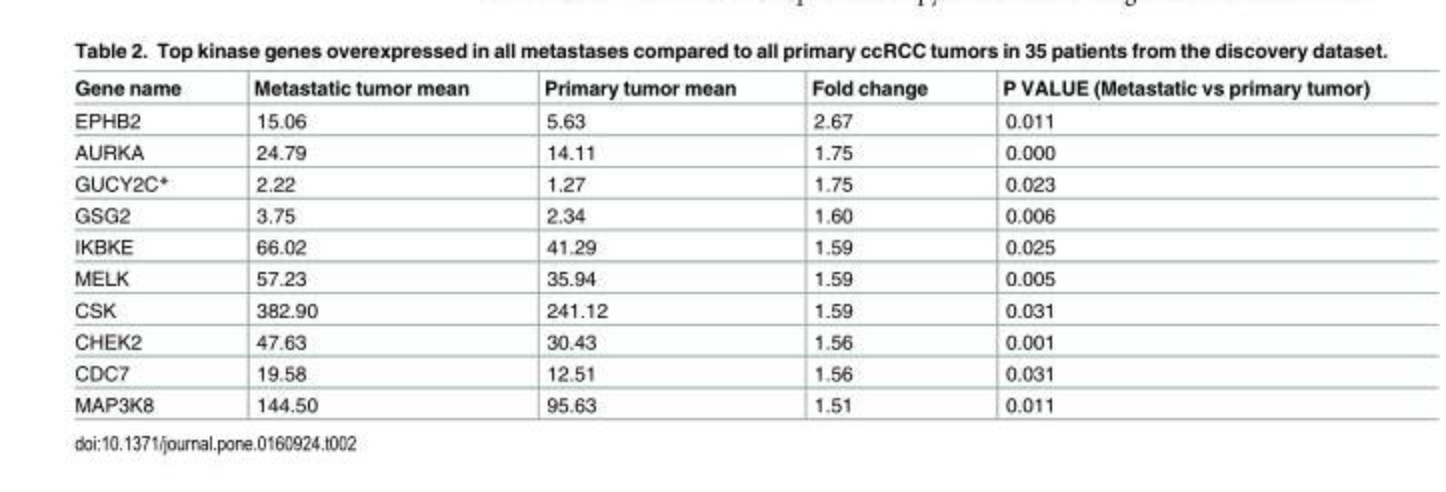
<table><thead><tr><td>Gene name</td><td>Metastatic tumor mean</td><td>Primary tumor mean</td><td>Fold change</td><td>P VALUE (Metastatic vs primary tumor)</td></tr></thead><tbody><tr><td>EPHB2</td><td>15.06</td><td>5.63</td><td>2.67</td><td>0.011</td></tr><tr><td>AURKA</td><td>24.79</td><td>14.11</td><td>1.75</td><td>0.000</td></tr><tr><td>GUCY2C*</td><td>2.22</td><td>1.27</td><td>1.75</td><td>0.023</td></tr><tr><td>GSG2</td><td>3.75</td><td>2.34</td><td>1.60</td><td>0.006</td></tr><tr><td>IKBKE</td><td>66.02</td><td>41.29</td><td>1.59</td><td>0.025</td></tr><tr><td>MELK</td><td>57.23</td><td>35.94</td><td>1.59</td><td>0.005</td></tr><tr><td>CSK</td><td>382.90</td><td>241.12</td><td>1.59</td><td>0.031</td></tr><tr><td>CHEK2</td><td>47.63</td><td>30.43</td><td>1.56</td><td>0.001</td></tr><tr><td>CDC7</td><td>19.58</td><td>12.51</td><td>1.56</td><td>0.031</td></tr><tr><td>MAP3K8</td><td>144.50</td><td>95.63</td><td>1.51</td><td>0.011</td></tr></tbody></table>